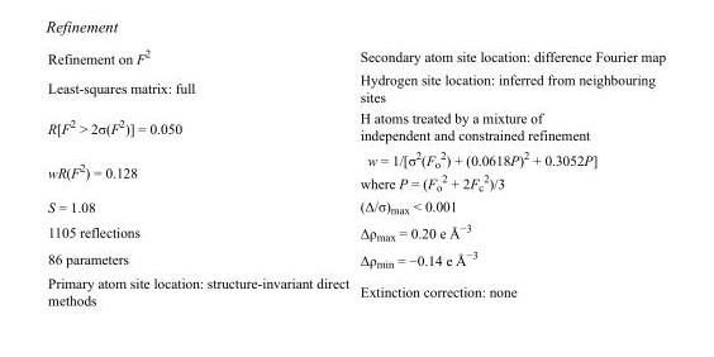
<table><tbody><tr><td>Refinement on F<sup>2</sup></td><td>Secondary atom site location: difference Fourier map</td></tr><tr><td>Least-squares matrix: full</td><td>Hydrogen site location: inferred from neighbouring sites</td></tr><tr><td>R[F<sup>2</sup> &gt; 2σ(F<sup>2</sup>)] = 0.050</td><td>H atoms treated by a mixture of independent and constrained refinement</td></tr><tr><td>wR(F<sup>2</sup>) = 0.128</td><td>w = 1/[σ<sup>2</sup>(F<sub>o</sub> <sup>2</sup>) + (0.0618P)<sup>2</sup> + 0.3052P] where P = (F<sub>o</sub> <sup>2</sup> + 2F<sub>c</sub> <sup>2</sup>)/3</td></tr><tr><td>S = 1.08</td><td>(Δ/σ)<sub>max</sub> &lt; 0.001</td></tr><tr><td>1105 reflections</td><td>Δρ<sub>max</sub> = 0.20 e Å<sup>−3</sup></td></tr><tr><td>86 parameters</td><td>Δρ<sub>min</sub> = −0.14 e Å<sup>−3</sup></td></tr><tr><td>Primary atom site location: structure-invariant direct methods</td><td>Extinction correction: none</td></tr></tbody></table>